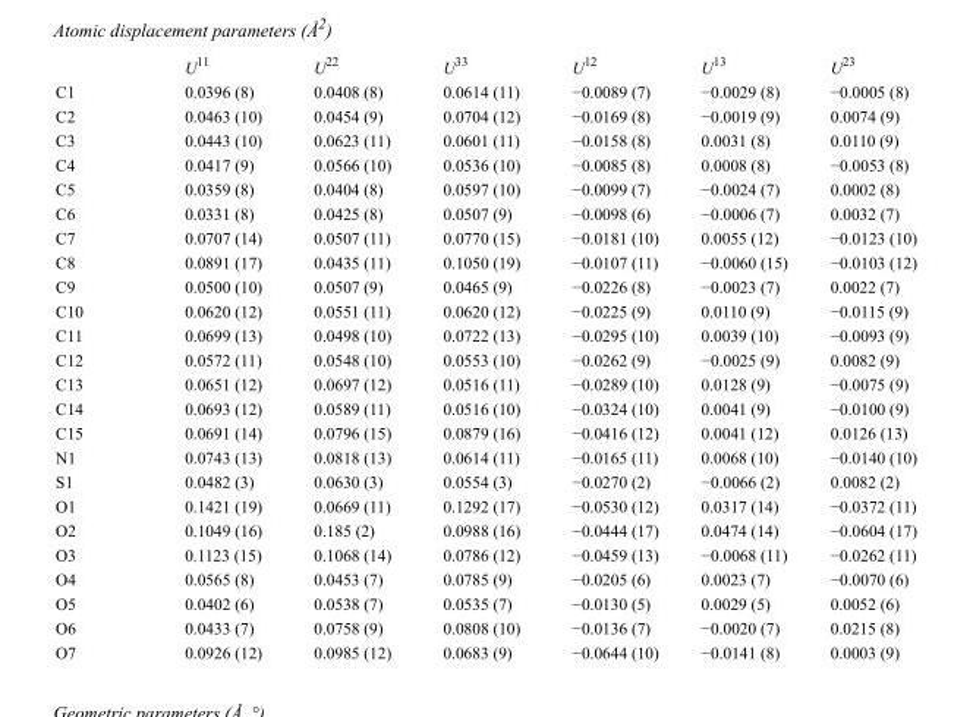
<table><thead><tr><td></td><td>U<sup>11</sup></td><td>U<sup>22</sup></td><td>U<sup>33</sup></td><td>U<sup>12</sup></td><td>U<sup>13</sup></td><td>U<sup>23</sup></td></tr></thead><tbody><tr><td>C1</td><td>0.0396 (8)</td><td>0.0408 (8)</td><td>0.0614 (11)</td><td>−0.0089 (7)</td><td>−0.0029 (8)</td><td>−0.0005 (8)</td></tr><tr><td>C2</td><td>0.0463 (10)</td><td>0.0454 (9)</td><td>0.0704 (12)</td><td>−0.0169 (8)</td><td>−0.0019 (9)</td><td>0.0074 (9)</td></tr><tr><td>C3</td><td>0.0443 (10)</td><td>0.0623 (11)</td><td>0.0601 (11)</td><td>−0.0158 (8)</td><td>0.0031 (8)</td><td>0.0110 (9)</td></tr><tr><td>C4</td><td>0.0417 (9)</td><td>0.0566 (10)</td><td>0.0536 (10)</td><td>−0.0085 (8)</td><td>0.0008 (8)</td><td>−0.0053 (8)</td></tr><tr><td>C5</td><td>0.0359 (8)</td><td>0.0404 (8)</td><td>0.0597 (10)</td><td>−0.0099 (7)</td><td>−0.0024 (7)</td><td>0.0002 (8)</td></tr><tr><td>C6</td><td>0.0331 (8)</td><td>0.0425 (8)</td><td>0.0507 (9)</td><td>−0.0098 (6)</td><td>−0.0006 (7)</td><td>0.0032 (7)</td></tr><tr><td>C7</td><td>0.0707 (14)</td><td>0.0507 (11)</td><td>0.0770 (15)</td><td>−0.0181 (10)</td><td>0.0055 (12)</td><td>−0.0123 (10)</td></tr><tr><td>C8</td><td>0.0891 (17)</td><td>0.0435 (11)</td><td>0.1050 (19)</td><td>−0.0107 (11)</td><td>−0.0060 (15)</td><td>−0.0103 (12)</td></tr><tr><td>C9</td><td>0.0500 (10)</td><td>0.0507 (9)</td><td>0.0465 (9)</td><td>−0.0226 (8)</td><td>−0.0023 (7)</td><td>0.0022 (7)</td></tr><tr><td>C10</td><td>0.0620 (12)</td><td>0.0551 (11)</td><td>0.0620 (12)</td><td>−0.0225 (9)</td><td>0.0110 (9)</td><td>−0.0115 (9)</td></tr><tr><td>C11</td><td>0.0699 (13)</td><td>0.0498 (10)</td><td>0.0722 (13)</td><td>−0.0295 (10)</td><td>0.0039 (10)</td><td>−0.0093 (9)</td></tr><tr><td>C12</td><td>0.0572 (11)</td><td>0.0548 (10)</td><td>0.0553 (10)</td><td>−0.0262 (9)</td><td>−0.0025 (9)</td><td>0.0082 (9)</td></tr><tr><td>C13</td><td>0.0651 (12)</td><td>0.0697 (12)</td><td>0.0516 (11)</td><td>−0.0289 (10)</td><td>0.0128 (9)</td><td>−0.0075 (9)</td></tr><tr><td>C14</td><td>0.0693 (12)</td><td>0.0589 (11)</td><td>0.0516 (10)</td><td>−0.0324 (10)</td><td>0.0041 (9)</td><td>−0.0100 (9)</td></tr><tr><td>C15</td><td>0.0691 (14)</td><td>0.0796 (15)</td><td>0.0879 (16)</td><td>−0.0416 (12)</td><td>0.0041 (12)</td><td>0.0126 (13)</td></tr><tr><td>N1</td><td>0.0743 (13)</td><td>0.0818 (13)</td><td>0.0614 (11)</td><td>−0.0165 (11)</td><td>0.0068 (10)</td><td>−0.0140 (10)</td></tr><tr><td>S1</td><td>0.0482 (3)</td><td>0.0630 (3)</td><td>0.0554 (3)</td><td>−0.0270 (2)</td><td>−0.0066 (2)</td><td>0.0082 (2)</td></tr><tr><td>O1</td><td>0.1421 (19)</td><td>0.0669 (11)</td><td>0.1292 (17)</td><td>−0.0530 (12)</td><td>0.0317 (14)</td><td>−0.0372 (11)</td></tr><tr><td>O2</td><td>0.1049 (16)</td><td>0.185 (2)</td><td>0.0988 (16)</td><td>−0.0444 (17)</td><td>0.0474 (14)</td><td>−0.0604 (17)</td></tr><tr><td>O3</td><td>0.1123 (15)</td><td>0.1068 (14)</td><td>0.0786 (12)</td><td>−0.0459 (13)</td><td>−0.0068 (11)</td><td>−0.0262 (11)</td></tr><tr><td>O4</td><td>0.0565 (8)</td><td>0.0453 (7)</td><td>0.0785 (9)</td><td>−0.0205 (6)</td><td>0.0023 (7)</td><td>−0.0070 (6)</td></tr><tr><td>O5</td><td>0.0402 (6)</td><td>0.0538 (7)</td><td>0.0535 (7)</td><td>−0.0130 (5)</td><td>0.0029 (5)</td><td>0.0052 (6)</td></tr><tr><td>O6</td><td>0.0433 (7)</td><td>0.0758 (9)</td><td>0.0808 (10)</td><td>−0.0136 (7)</td><td>−0.0020 (7)</td><td>0.0215 (8)</td></tr><tr><td>O7</td><td>0.0926 (12)</td><td>0.0985 (12)</td><td>0.0683 (9)</td><td>−0.0644 (10)</td><td>−0.0141 (8)</td><td>0.0003 (9)</td></tr></tbody></table>